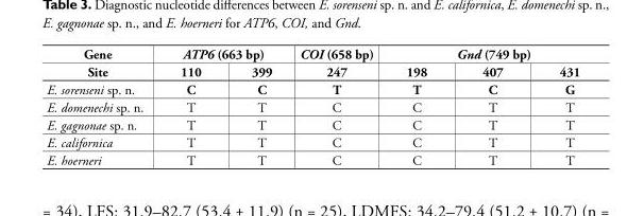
<table><thead><tr><td rowspan="2">Gene Site</td><td colspan="2">ATP6 (663 bp)</td><td rowspan="2">COI (658 bp) 247</td><td colspan="3">Gnd (749 bp)</td></tr><tr><td>110</td><td>399</td><td>198</td><td>407</td><td>431</td></tr></thead><tbody><tr><td>E. sorenseni sp. n.</td><td>C</td><td>C</td><td>T</td><td>T</td><td>C</td><td>G</td></tr><tr><td>E. domenechi sp. n.</td><td>T</td><td>T</td><td>C</td><td>C</td><td>T</td><td>T</td></tr><tr><td>E. gagnonae sp. n.</td><td>T</td><td>T</td><td>C</td><td>C</td><td>T</td><td>T</td></tr><tr><td>E. californica</td><td>T</td><td>T</td><td>C</td><td>C</td><td>T</td><td>T</td></tr><tr><td>E. hoerneri</td><td>T</td><td>T</td><td>C</td><td>C</td><td>T</td><td>T</td></tr></tbody></table>